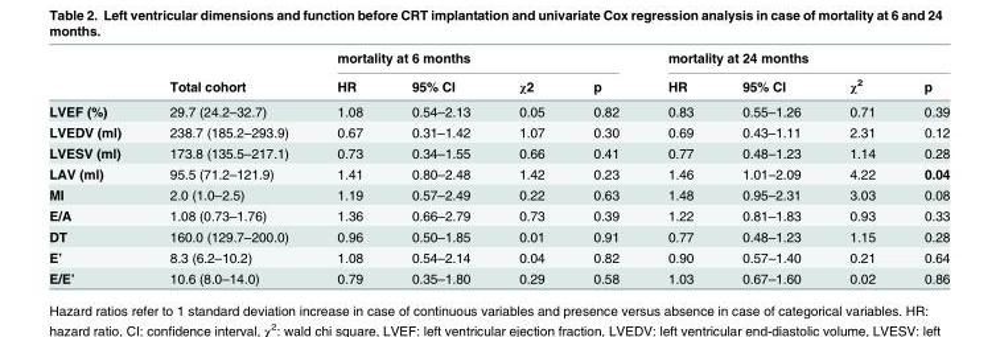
<table><thead><tr><td rowspan="2"></td><td rowspan="2">Total cohort</td><td colspan="4">mortality at 6 months</td><td colspan="4">mortality at 24 months</td></tr><tr><td>HR</td><td>95% CI</td><td>χ2</td><td>p</td><td>HR</td><td>95% CI</td><td>χ<sup>2</sup></td><td>p</td></tr></thead><tbody><tr><td>LVEF (%)</td><td>29.7 (24.2–32.7)</td><td>1.08</td><td>0.54–2.13</td><td>0.05</td><td>0.82</td><td>0.83</td><td>0.55–1.26</td><td>0.71</td><td>0.39</td></tr><tr><td>LVEDV (ml)</td><td>238.7 (185.2–293.9)</td><td>0.67</td><td>0.31–1.42</td><td>1.07</td><td>0.30</td><td>0.69</td><td>0.43–1.11</td><td>2.31</td><td>0.12</td></tr><tr><td>LVESV (ml)</td><td>173.8 (135.5–217.1)</td><td>0.73</td><td>0.34–1.55</td><td>0.66</td><td>0.41</td><td>0.77</td><td>0.48–1.23</td><td>1.14</td><td>0.28</td></tr><tr><td>LAV (ml)</td><td>95.5 (71.2–121.9)</td><td>1.41</td><td>0.80–2.48</td><td>1.42</td><td>0.23</td><td>1.46</td><td>1.01–2.09</td><td>4.22</td><td>0.04</td></tr><tr><td>MI</td><td>2.0 (1.0–2.5)</td><td>1.19</td><td>0.57–2.49</td><td>0.22</td><td>0.63</td><td>1.48</td><td>0.95–2.31</td><td>3.03</td><td>0.08</td></tr><tr><td>E/A</td><td>1.08 (0.73–1.76)</td><td>1.36</td><td>0.66–2.79</td><td>0.73</td><td>0.39</td><td>1.22</td><td>0.81–1.83</td><td>0.93</td><td>0.33</td></tr><tr><td>DT</td><td>160.0 (129.7–200.0)</td><td>0.96</td><td>0.50–1.85</td><td>0.01</td><td>0.91</td><td>0.77</td><td>0.48–1.23</td><td>1.15</td><td>0.28</td></tr><tr><td>E’</td><td>8.3 (6.2–10.2)</td><td>1.08</td><td>0.54–2.14</td><td>0.04</td><td>0.82</td><td>0.90</td><td>0.57–1.40</td><td>0.21</td><td>0.64</td></tr><tr><td>E/E’</td><td>10.6 (8.0–14.0)</td><td>0.79</td><td>0.35–1.80</td><td>0.29</td><td>0.58</td><td>1.03</td><td>0.67–1.60</td><td>0.02</td><td>0.86</td></tr></tbody></table>